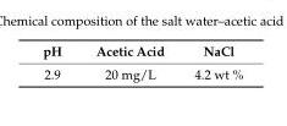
<table><thead><tr><td>pH</td><td>Acetic Acid</td><td>NaCl</td></tr></thead><tbody><tr><td>2.9</td><td>20 mg/L</td><td>4.2 wt %</td></tr></tbody></table>